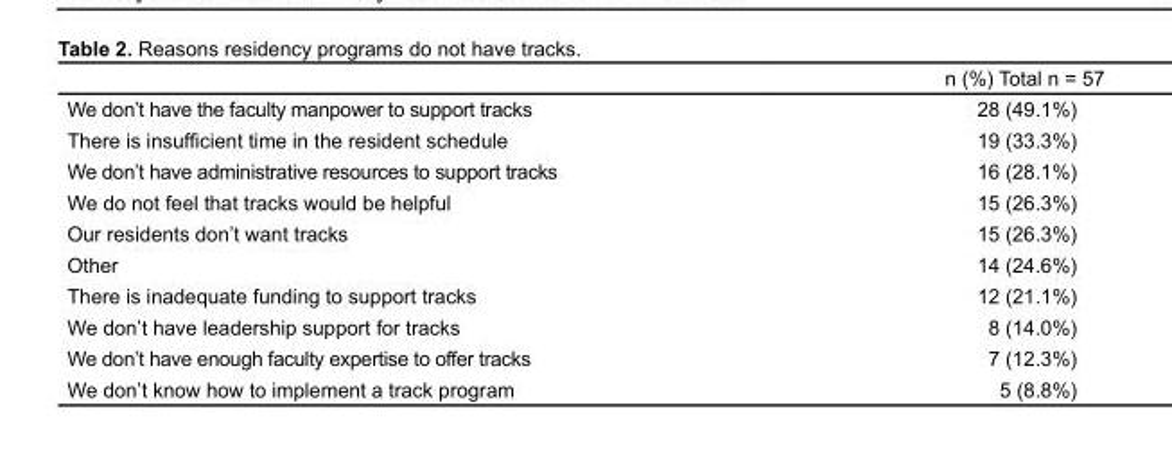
<table><thead><tr><td></td><td>n (%) Total n = 57</td></tr></thead><tbody><tr><td>We don’t have the faculty manpower to support tracks</td><td>28 (49.1%)</td></tr><tr><td>There is insufficient time in the resident schedule</td><td>19 (33.3%)</td></tr><tr><td>We don’t have administrative resources to support tracks</td><td>16 (28.1%)</td></tr><tr><td>We do not feel that tracks would be helpful</td><td>15 (26.3%)</td></tr><tr><td>Our residents don’t want tracks</td><td>15 (26.3%)</td></tr><tr><td>Other</td><td>14 (24.6%)</td></tr><tr><td>There is inadequate funding to support tracks</td><td>12 (21.1%)</td></tr><tr><td>We don’t have leadership support for tracks</td><td>8 (14.0%)</td></tr><tr><td>We don’t have enough faculty expertise to offer tracks</td><td>7 (12.3%)</td></tr><tr><td>We don’t know how to implement a track program</td><td>5 (8.8%)</td></tr></tbody></table>